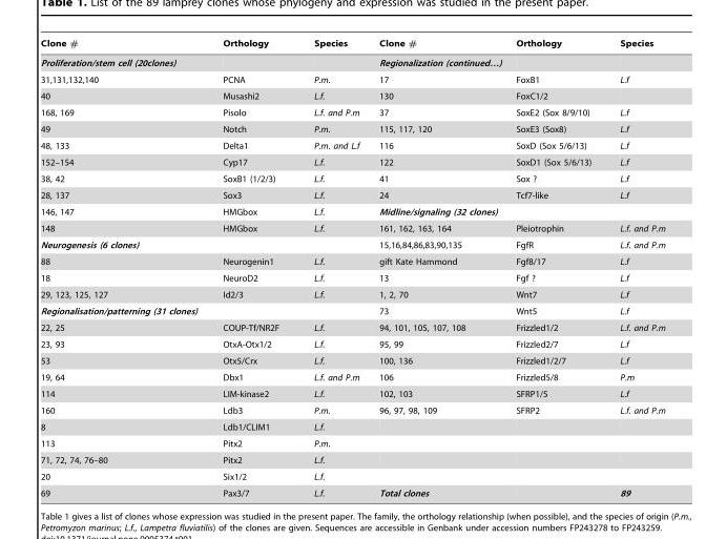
<table><thead><tr><td>Clone #</td><td>Orthology</td><td>Species</td><td>Clone #</td><td>Orthology</td><td>Species</td></tr></thead><tbody><tr><td>Proliferation/stem cell (20clones)</td><td></td><td></td><td>Regionalization (continued…)</td><td></td><td></td></tr><tr><td>31,131,132,140</td><td>PCNA</td><td>P.m.</td><td>17</td><td>FoxB1</td><td>L.f</td></tr><tr><td>40</td><td>Musashi2</td><td>L.f.</td><td>130</td><td>FoxC1/2</td><td></td></tr><tr><td>168, 169</td><td>Pisolo</td><td>L.f. and P.m</td><td>37</td><td>SoxE2 (Sox 8/9/10)</td><td>L.f</td></tr><tr><td>49</td><td>Notch</td><td>P.m.</td><td>115, 117, 120</td><td>SoxE3 (Sox8)</td><td>L.f</td></tr><tr><td>48, 133</td><td>Delta1</td><td>P.m. and L.f</td><td>116</td><td>SoxD (Sox 5/6/13)</td><td>L.f</td></tr><tr><td>152–154</td><td>Cyp17</td><td>L.f.</td><td>122</td><td>SoxD1 (Sox 5/6/13)</td><td>L.f</td></tr><tr><td>38, 42</td><td>SoxB1 (1/2/3)</td><td>L.f.</td><td>41</td><td>Sox ?</td><td>L.f</td></tr><tr><td>28, 137</td><td>Sox3</td><td>L.f.</td><td>24</td><td>Tcf7-like</td><td>L.f</td></tr><tr><td>146, 147</td><td>HMGbox</td><td>L.f.</td><td>Midline/signaling (32 clones)</td><td></td><td></td></tr><tr><td>148</td><td>HMGbox</td><td>L.f.</td><td>161, 162, 163, 164</td><td>Pleiotrophin</td><td>L.f. and P.m</td></tr><tr><td>Neurogenesis (6 clones)</td><td></td><td></td><td>15,16,84,86,83,90,135</td><td>FgfR</td><td>L.f. and P.m</td></tr><tr><td>88</td><td>Neurogenin1</td><td>L.f.</td><td>gift Kate Hammond</td><td>Fgf8/17</td><td>L.f</td></tr><tr><td>18</td><td>NeuroD2</td><td>L.f.</td><td>13</td><td>Fgf ?</td><td>L.f</td></tr><tr><td>29, 123, 125, 127</td><td>Id2/3</td><td>L.f.</td><td>1, 2, 70</td><td>Wnt7</td><td>L.f</td></tr><tr><td>Regionalisation/patterning (31 clones)</td><td></td><td></td><td>73</td><td>Wnt5</td><td>L.f</td></tr><tr><td>22, 25</td><td>COUP-Tf/NR2F</td><td>L.f.</td><td>94, 101, 105, 107, 108</td><td>Frizzled1/2</td><td>L.f. and P.m</td></tr><tr><td>23, 93</td><td>OtxA-Otx1/2</td><td>L.f.</td><td>95, 99</td><td>Frizzled2/7</td><td>L.f</td></tr><tr><td>53</td><td>Otx5/Crx</td><td>L.f.</td><td>100, 136</td><td>Frizzled1/2/7</td><td>L.f</td></tr><tr><td>19, 64</td><td>Dbx1</td><td>L.f. and P.m</td><td>106</td><td>Frizzled5/8</td><td>P.m</td></tr><tr><td>114</td><td>LIM-kinase2</td><td>L.f.</td><td>102, 103</td><td>SFRP1/5</td><td>L.f</td></tr><tr><td>160</td><td>Ldb3</td><td>P.m.</td><td>96, 97, 98, 109</td><td>SFRP2</td><td>L.f. and P.m</td></tr><tr><td>8</td><td>Ldb1/CLIM1</td><td>L.f.</td><td></td><td></td><td></td></tr><tr><td>113</td><td>Pitx2</td><td>P.m.</td><td></td><td></td><td></td></tr><tr><td>71, 72, 74, 76–80</td><td>Pitx2</td><td>L.f.</td><td></td><td></td><td></td></tr><tr><td>20</td><td>Six1/2</td><td>L.f.</td><td></td><td></td><td></td></tr><tr><td>69</td><td>Pax3/7</td><td>L.f.</td><td>Total clones</td><td></td><td>89</td></tr></tbody></table>